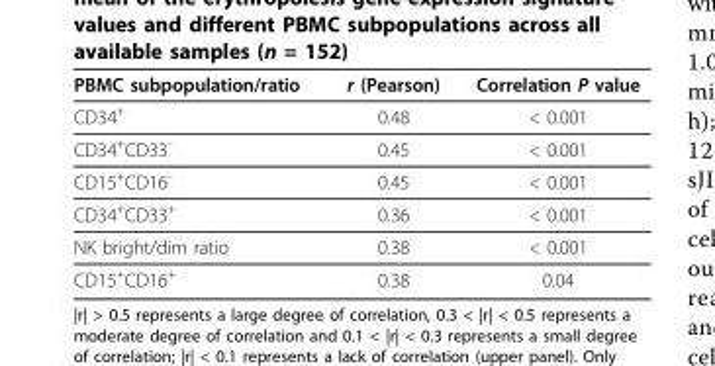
<table><thead><tr><td>PBMC subpopulation/ratio</td><td>r (Pearson)</td><td>Correlation P value</td></tr></thead><tbody><tr><td>CD34<sup>+</sup></td><td>0.48</td><td>&lt; 0.001</td></tr><tr><td>CD34<sup>+</sup>CD33<sup>-</sup></td><td>0.45</td><td>&lt; 0.001</td></tr><tr><td>CD15<sup>+</sup>CD16<sup>-</sup></td><td>0.45</td><td>&lt; 0.001</td></tr><tr><td>CD34<sup>+</sup>CD33<sup>+</sup></td><td>0.36</td><td>&lt; 0.001</td></tr><tr><td>NK bright/dim ratio</td><td>0.38</td><td>&lt; 0.001</td></tr><tr><td>CD15<sup>+</sup>CD16<sup>+</sup></td><td>0.38</td><td>0.04</td></tr></tbody></table>